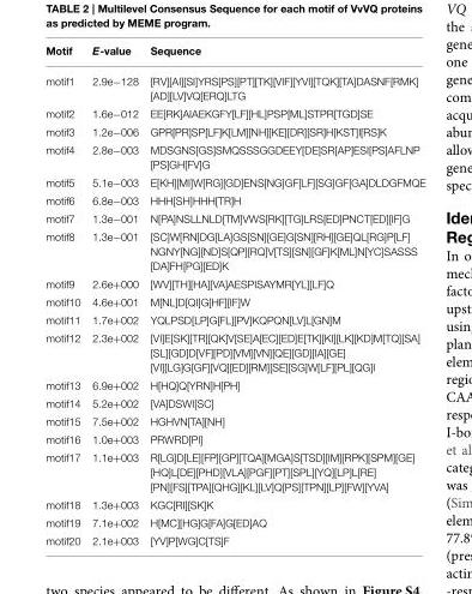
<table><thead><tr><td>Motif</td><td>E-value</td><td>Sequence</td></tr></thead><tbody><tr><td>motif1</td><td>2.9e−128</td><td>[RV][AI][SI]YRS[PS][PT][TK][VIF][YVI][TQK][TA]DASNF[RMK] [AD][LV]VQ[ERQ]LTG</td></tr><tr><td>motif2</td><td>1.6e−012</td><td>EE[RK]AIAEKGFY[LF][HL]PSP[ML]STPR[TGD]SE</td></tr><tr><td>motif3</td><td>1.2e−006</td><td>GPR[PR]SP[LF]K[LM][NH][KE][DR][SR]H[KST]I[RS]K</td></tr><tr><td>motif4</td><td>2.8e−003</td><td>MDSGNS[GS]SMQSSSGGDEEY[DE]SR[AP]ESI[PS]AFLNP [PS]GH[FV]G</td></tr><tr><td>motif5</td><td>5.1e−003</td><td>E[KH][MI]W[RG][GD]ENS[NG]GF[LF][SG]GF[GA]DLDGFMQE</td></tr><tr><td>motif6</td><td>6.8e−003</td><td>HHH[SH]HHH[TR]H</td></tr><tr><td>motif7</td><td>1.3e−001</td><td>N[PA]NSLLNLD[TM]VWS[RK][TG]LRS[ED]PNCT[ED][IF]G</td></tr><tr><td>motif8</td><td>1.3e−001</td><td>[SC]W[RN]DG[LA]GS[SN][GE]G[SN][RH][GE]QL[RG]P[LF] NGNY[NG][ND]S[QP][RQ]V[TS][SN][GF]K[ML]N[YC]SASSS [DA]FH[PG][ED]K</td></tr><tr><td>motif9</td><td>2.6e+000</td><td>[WV][TH][HA][VA]AESPISAYMR[YL][LF]Q</td></tr><tr><td>motif10</td><td>4.6e+001</td><td>M[NL]D[QI]G[HF][IF]W</td></tr><tr><td>motif11</td><td>1.7e+002</td><td>YQLPSD[LP]G[FL][PV]KQPQN[LV]L[GN]M</td></tr><tr><td>motif12</td><td>2.3e+002</td><td>[VI]E[SK][TR][QK]V[SE]A[EC][ED]E[TK][KI][LK][KD]M[TQ][SA] [SL][GD]D[VF][PD][VM][VN][QE][GD][IA][GE] [VI][LG]G[GF][VQ][ED][RM][SE][SG]W[LF][PL][QG]I</td></tr><tr><td>motif13</td><td>6.9e+002</td><td>H[HQ]Q[YRN]H[PH]</td></tr><tr><td>motif14</td><td>5.2e+002</td><td>[VA]DSWI[SC]</td></tr><tr><td>motif15</td><td>7.5e+002</td><td>HGHVN[TA][NH]</td></tr><tr><td>motif16</td><td>1.0e+003</td><td>PRWRD[PI]</td></tr><tr><td>motif17</td><td>1.1e+003</td><td>R[LG]D[LE][FP][GP][TQA][MGA]S[TSD][IM][RPK][SPM][GE] [HQ]L[DE][PHD][VLA][PGF][PT][SPL][YQ][LP]L[RE] [PN][FS][TPA][QHG][KL][LV]Q[PS][TPN][LP][FW][YVA]</td></tr><tr><td>motif18</td><td>1.3e+003</td><td>KGC[RI][SK]K</td></tr><tr><td>motif19</td><td>7.1e+002</td><td>H[MC][HG]G[FA]G[ED]AQ</td></tr><tr><td>motif20</td><td>2.1e+003</td><td>[YV]P[WG]C[TS]F</td></tr></tbody></table>